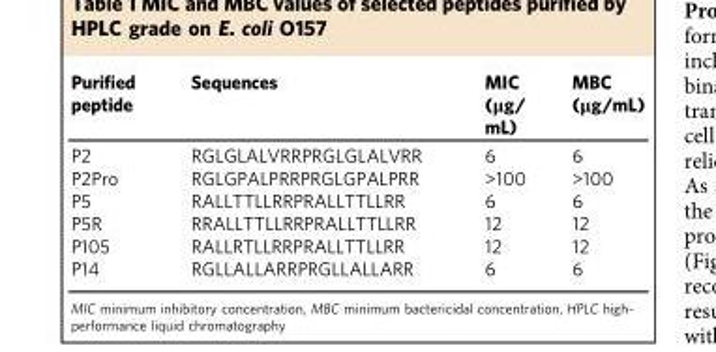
<table><thead><tr><td>Purified peptide</td><td>Sequences</td><td>MIC (μg/ mL)</td><td>MBC (μg/mL)</td></tr></thead><tbody><tr><td>P2</td><td>RGLGLALVRRPRGLGLALVRR</td><td>6</td><td>6</td></tr><tr><td>P2Pro</td><td>RGLGPALPRRPRGLGPALPRR</td><td>&gt;100</td><td>&gt;100</td></tr><tr><td>P5</td><td>RALLTTLLRRPRALLTTLLRR</td><td>6</td><td>6</td></tr><tr><td>P5R</td><td>RRALLTTLLRRPRALLTTLLRR</td><td>12</td><td>12</td></tr><tr><td>P105</td><td>RALLRTLLRRPRALLTTLLRR</td><td>12</td><td>12</td></tr><tr><td>P14</td><td>RGLLALLARRPRGLLALLARR</td><td>6</td><td>6</td></tr></tbody></table>